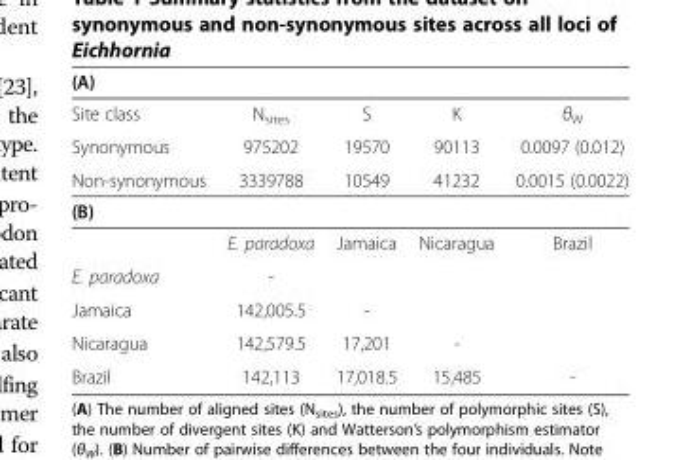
<table><thead><tr><td colspan="5">(A)</td></tr><tr><td>Site class</td><td>N<sub>sites</sub></td><td>S</td><td>K</td><td>θ<sub>W</sub></td></tr></thead><tbody><tr><td>Synonymous</td><td>975202</td><td>19570</td><td>90113</td><td>0.0097 (0.012)</td></tr><tr><td>Non-synonymous</td><td>3339788</td><td>10549</td><td>41232</td><td>0.0015 (0.0022)</td></tr><tr><td colspan="5">(B)</td></tr><tr><td></td><td>E. paradoxa</td><td>Jamaica</td><td>Nicaragua</td><td>Brazil</td></tr><tr><td>E. paradoxa</td><td>-</td><td></td><td></td><td></td></tr><tr><td>Jamaica</td><td>142,005.5</td><td>-</td><td></td><td></td></tr><tr><td>Nicaragua</td><td>142,579.5</td><td>17,201</td><td>-</td><td></td></tr><tr><td>Brazil</td><td>142,113</td><td>17,018.5</td><td>15,485</td><td>-</td></tr></tbody></table>